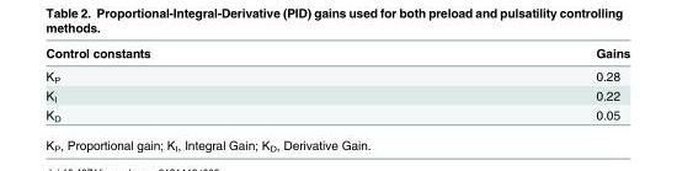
<table><thead><tr><td>Control constants</td><td>Gains</td></tr></thead><tbody><tr><td>K<sub>P</sub></td><td>0.28</td></tr><tr><td>K<sub>I</sub></td><td>0.22</td></tr><tr><td>K<sub>D</sub></td><td>0.05</td></tr></tbody></table>